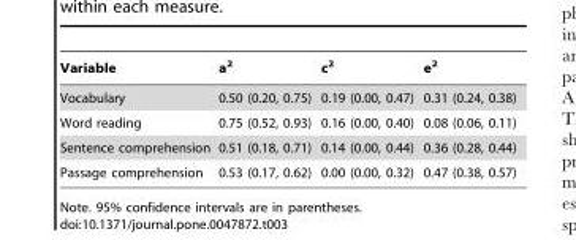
<table><thead><tr><td>Variable</td><td>a<sup>2</sup></td><td>c<sup>2</sup></td><td>e<sup>2</sup></td></tr></thead><tbody><tr><td>Vocabulary</td><td>0.50 (0.20, 0.75)</td><td>0.19 (0.00, 0.47)</td><td>0.31 (0.24, 0.38)</td></tr><tr><td>Word reading</td><td>0.75 (0.52, 0.93)</td><td>0.16 (0.00, 0.40)</td><td>0.08 (0.06, 0.11)</td></tr><tr><td>Sentence comprehension</td><td>0.51 (0.18, 0.71)</td><td>0.14 (0.00, 0.44)</td><td>0.36 (0.28, 0.44)</td></tr><tr><td>Passage comprehension</td><td>0.53 (0.17, 0.62)</td><td>0.00 (0.00, 0.32)</td><td>0.47 (0.38, 0.57)</td></tr></tbody></table>